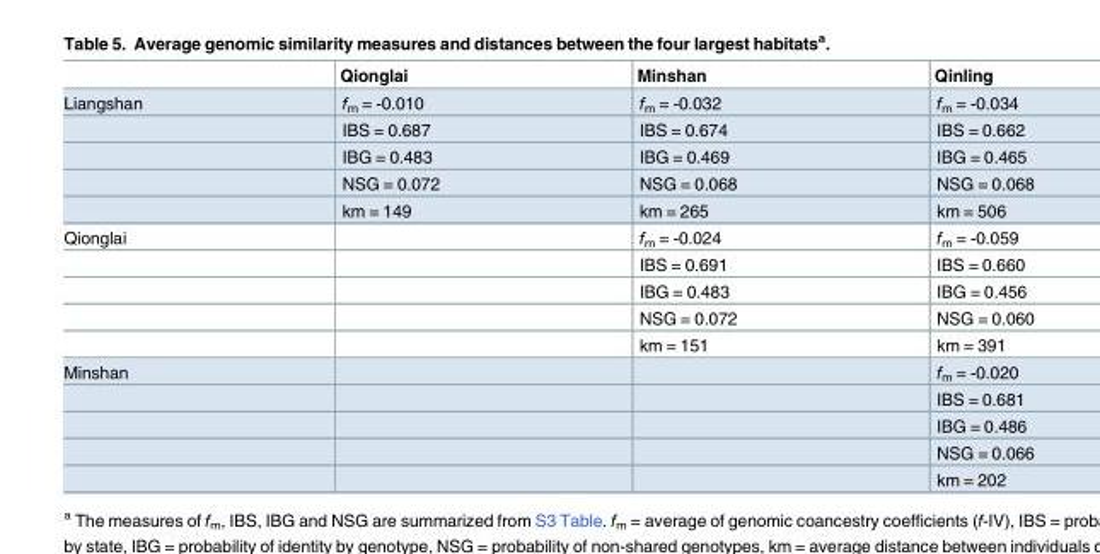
<table><thead><tr><td></td><td>Qionglai</td><td>Minshan</td><td>Qinling</td></tr></thead><tbody><tr><td rowspan="5">Liangshan</td><td>f<sub>m</sub> = -0.010</td><td>f<sub>m</sub> = -0.032</td><td>f<sub>m</sub> = -0.034</td></tr><tr><td>IBS = 0.687</td><td>IBS = 0.674</td><td>IBS = 0.662</td></tr><tr><td>IBG = 0.483</td><td>IBG = 0.469</td><td>IBG = 0.465</td></tr><tr><td>NSG = 0.072</td><td>NSG = 0.068</td><td>NSG = 0.068</td></tr><tr><td>km = 149</td><td>km = 265</td><td>km = 506</td></tr><tr><td rowspan="5">Qionglai</td><td></td><td>f<sub>m</sub> = -0.024</td><td>f<sub>m</sub> = -0.059</td></tr><tr><td></td><td>IBS = 0.691</td><td>IBS = 0.660</td></tr><tr><td></td><td>IBG = 0.483</td><td>IBG = 0.456</td></tr><tr><td></td><td>NSG = 0.072</td><td>NSG = 0.060</td></tr><tr><td></td><td>km = 151</td><td>km = 391</td></tr><tr><td rowspan="5">Minshan</td><td></td><td></td><td>f<sub>m</sub> = -0.020</td></tr><tr><td></td><td></td><td>IBS = 0.681</td></tr><tr><td></td><td></td><td>IBG = 0.486</td></tr><tr><td></td><td></td><td>NSG = 0.066</td></tr><tr><td></td><td></td><td>km = 202</td></tr></tbody></table>